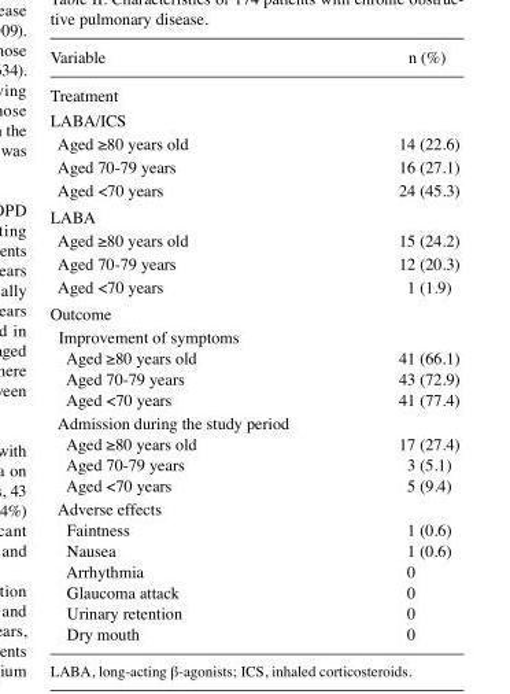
<table><thead><tr><td>Variable</td><td>n (%)</td></tr></thead><tbody><tr><td colspan="2">Treatment</td></tr><tr><td colspan="2">LABA/ICS</td></tr><tr><td>Aged ≥80 years old</td><td>14 (22.6)</td></tr><tr><td>Aged 70-79 years</td><td>16 (27.1)</td></tr><tr><td>Aged &lt;70 years</td><td>24 (45.3)</td></tr><tr><td colspan="2">LABA</td></tr><tr><td>Aged ≥80 years old</td><td>15 (24.2)</td></tr><tr><td>Aged 70-79 years</td><td>12 (20.3)</td></tr><tr><td>Aged &lt;70 years</td><td>1 (1.9)</td></tr><tr><td colspan="2">Outcome</td></tr><tr><td colspan="2">Improvement of symptoms</td></tr><tr><td>Aged ≥80 years old</td><td>41 (66.1)</td></tr><tr><td>Aged 70-79 years</td><td>43 (72.9)</td></tr><tr><td>Aged &lt;70 years</td><td>41 (77.4)</td></tr><tr><td colspan="2">Admission during the study period</td></tr><tr><td>Aged ≥80 years old</td><td>17 (27.4)</td></tr><tr><td>Aged 70-79 years</td><td>3 (5.1)</td></tr><tr><td>Aged &lt;70 years</td><td>5 (9.4)</td></tr><tr><td colspan="2">Adverse effects</td></tr><tr><td>Faintness</td><td>1 (0.6)</td></tr><tr><td>Nausea</td><td>1 (0.6)</td></tr><tr><td>Arrhythmia</td><td>0</td></tr><tr><td>Glaucoma attack</td><td>0</td></tr><tr><td>Urinary retention</td><td>0</td></tr><tr><td>Dry mouth</td><td>0</td></tr></tbody></table>